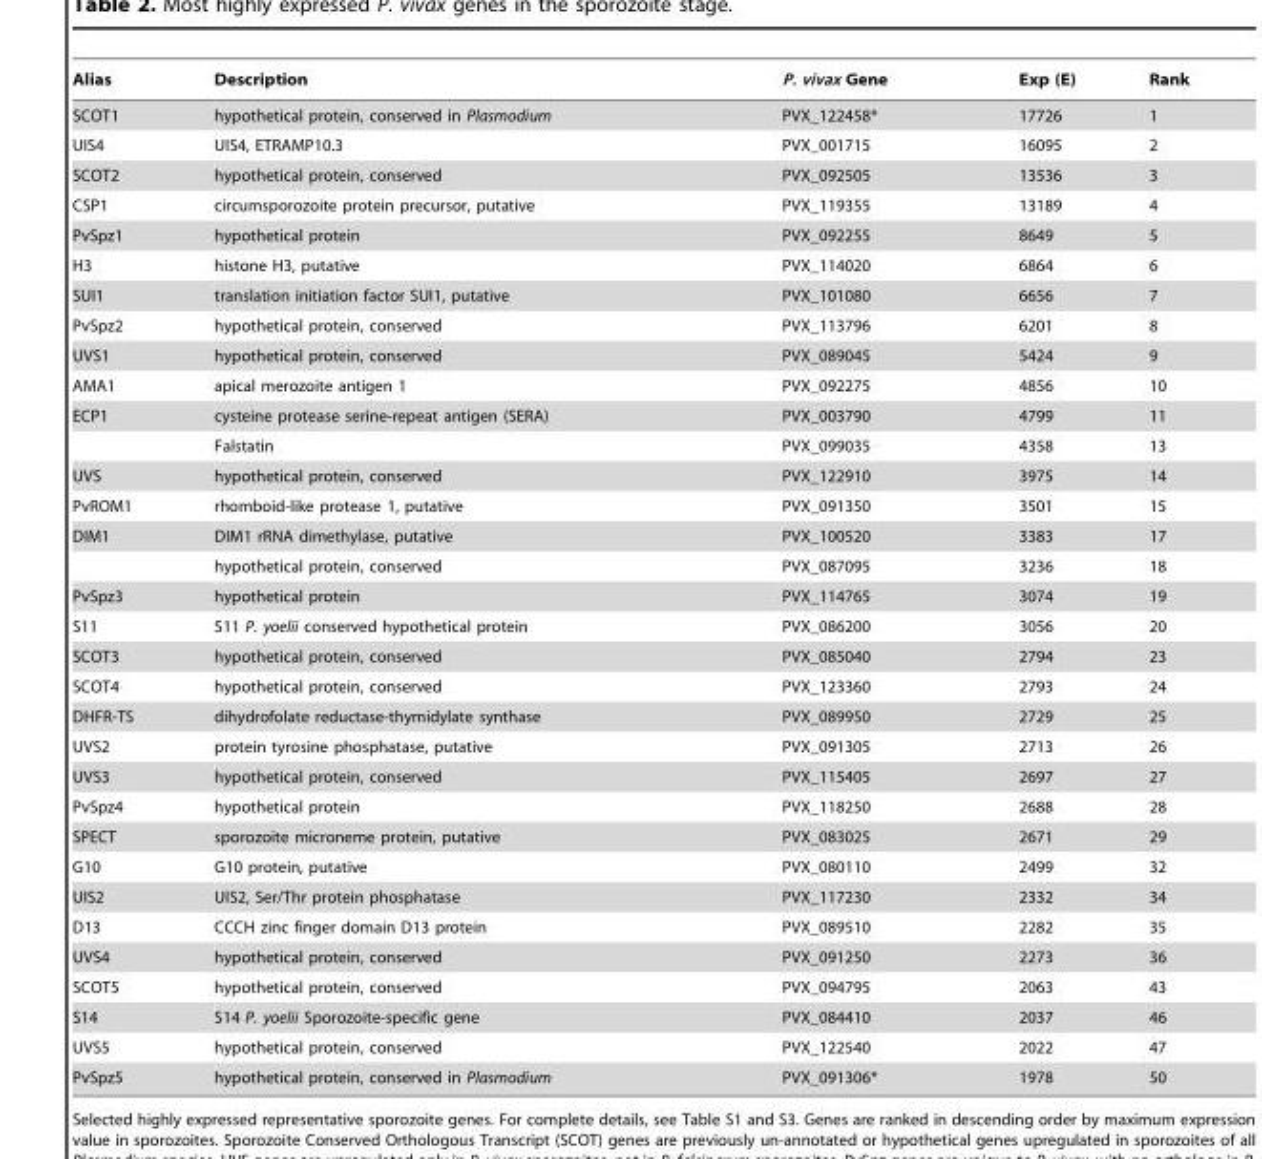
<table><thead><tr><td>Alias</td><td>Description</td><td>P. vivax Gene</td><td>Exp (E)</td><td>Rank</td></tr></thead><tbody><tr><td>SCOT1</td><td>hypothetical protein, conserved in Plasmodium</td><td>PVX_122458*</td><td>17726</td><td>1</td></tr><tr><td>UIS4</td><td>UIS4, ETRAMP10.3</td><td>PVX_001715</td><td>16095</td><td>2</td></tr><tr><td>SCOT2</td><td>hypothetical protein, conserved</td><td>PVX_092505</td><td>13536</td><td>3</td></tr><tr><td>CSP1</td><td>circumsporozoite protein precursor, putative</td><td>PVX_119355</td><td>13189</td><td>4</td></tr><tr><td>PvSpz1</td><td>hypothetical protein</td><td>PVX_092255</td><td>8649</td><td>5</td></tr><tr><td>H3</td><td>histone H3, putative</td><td>PVX_114020</td><td>6864</td><td>6</td></tr><tr><td>SUI1</td><td>translation initiation factor SUI1, putative</td><td>PVX_101080</td><td>6656</td><td>7</td></tr><tr><td>PvSpz2</td><td>hypothetical protein, conserved</td><td>PVX_113796</td><td>6201</td><td>8</td></tr><tr><td>UVS1</td><td>hypothetical protein, conserved</td><td>PVX_089045</td><td>5424</td><td>9</td></tr><tr><td>AMA1</td><td>apical merozoite antigen 1</td><td>PVX_092275</td><td>4856</td><td>10</td></tr><tr><td rowspan="2">ECP1</td><td>cysteine protease serine-repeat antigen (SERA)</td><td>PVX_003790</td><td>4799</td><td>11</td></tr><tr><td>Falstatin</td><td>PVX_099035</td><td>4358</td><td>13</td></tr><tr><td>UVS</td><td>hypothetical protein, conserved</td><td>PVX_122910</td><td>3975</td><td>14</td></tr><tr><td>PvROM1</td><td>rhomboid-like protease 1, putative</td><td>PVX_091350</td><td>3501</td><td>15</td></tr><tr><td rowspan="2">DIM1</td><td>DIM1 rRNA dimethylase, putative</td><td>PVX_100520</td><td>3383</td><td>17</td></tr><tr><td>hypothetical protein, conserved</td><td>PVX_087095</td><td>3236</td><td>18</td></tr><tr><td>PvSpz3</td><td>hypothetical protein</td><td>PVX_114765</td><td>3074</td><td>19</td></tr><tr><td>S11</td><td>S11 P. yoelii conserved hypothetical protein</td><td>PVX_086200</td><td>3056</td><td>20</td></tr><tr><td>SCOT3</td><td>hypothetical protein, conserved</td><td>PVX_085040</td><td>2794</td><td>23</td></tr><tr><td>SCOT4</td><td>hypothetical protein, conserved</td><td>PVX_123360</td><td>2793</td><td>24</td></tr><tr><td>DHFR-TS</td><td>dihydrofolate reductase-thymidylate synthase</td><td>PVX_089950</td><td>2729</td><td>25</td></tr><tr><td>UVS2</td><td>protein tyrosine phosphatase, putative</td><td>PVX_091305</td><td>2713</td><td>26</td></tr><tr><td>UVS3</td><td>hypothetical protein, conserved</td><td>PVX_115405</td><td>2697</td><td>27</td></tr><tr><td>PvSpz4</td><td>hypothetical protein</td><td>PVX_118250</td><td>2688</td><td>28</td></tr><tr><td>SPECT</td><td>sporozoite microneme protein, putative</td><td>PVX_083025</td><td>2671</td><td>29</td></tr><tr><td>G10</td><td>G10 protein, putative</td><td>PVX_080110</td><td>2499</td><td>32</td></tr><tr><td>UIS2</td><td>UIS2, Ser/Thr protein phosphatase</td><td>PVX_117230</td><td>2332</td><td>34</td></tr><tr><td>D13</td><td>CCCH zinc finger domain D13 protein</td><td>PVX_089510</td><td>2282</td><td>35</td></tr><tr><td>UVS4</td><td>hypothetical protein, conserved</td><td>PVX_091250</td><td>2273</td><td>36</td></tr><tr><td>SCOT5</td><td>hypothetical protein, conserved</td><td>PVX_094795</td><td>2063</td><td>43</td></tr><tr><td>S14</td><td>S14 P. yoelii Sporozoite-specific gene</td><td>PVX_084410</td><td>2037</td><td>46</td></tr><tr><td>UVS5</td><td>hypothetical protein, conserved</td><td>PVX_122540</td><td>2022</td><td>47</td></tr><tr><td>PvSpz5</td><td>hypothetical protein, conserved in Plasmodium</td><td>PVX_091306*</td><td>1978</td><td>50</td></tr></tbody></table>